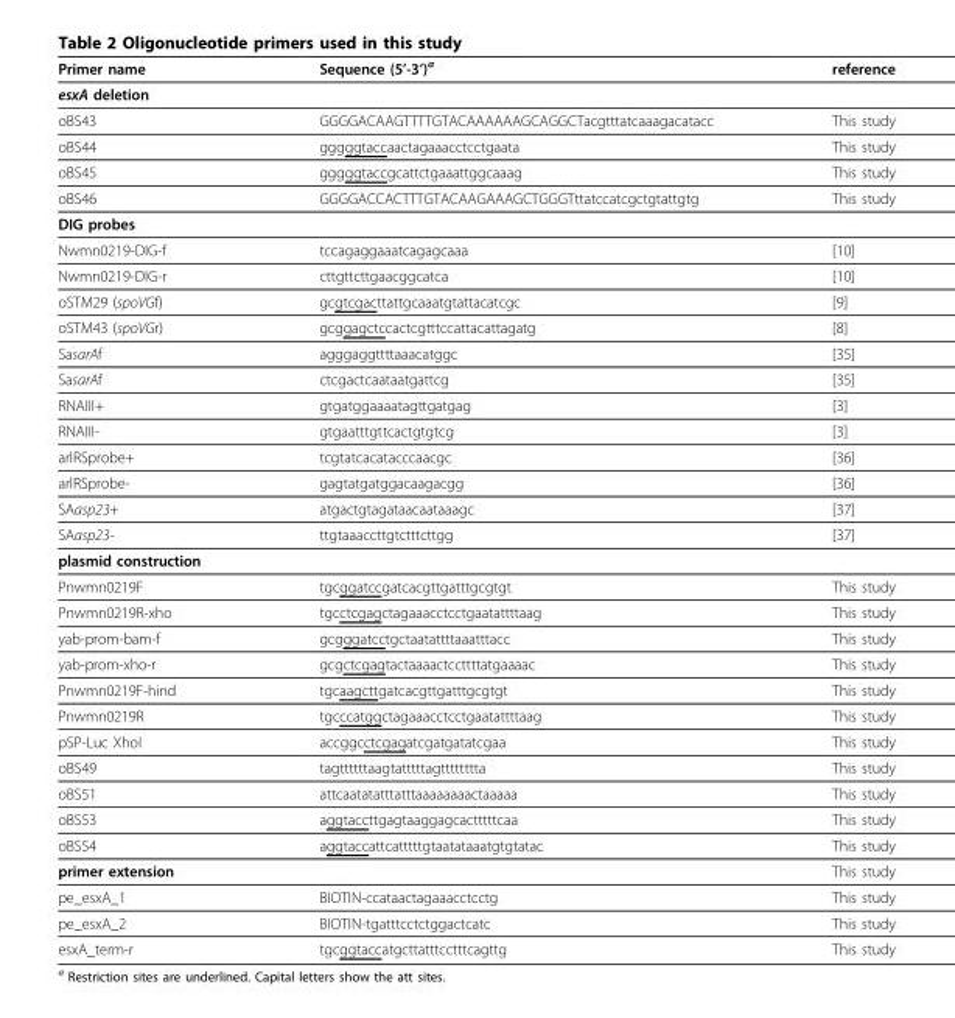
<table><thead><tr><td>Primer name</td><td>Sequence (5’-3’)<sup>a</sup></td><td>reference</td></tr></thead><tbody><tr><td colspan="3">esxA deletion</td></tr><tr><td>oBS43</td><td>GGGGACAAGTTTTGTACAAAAAAGCAGGCTacgtttatcaaagacatacc</td><td>This study</td></tr><tr><td>oBS44</td><td>gggggtaccaactagaaacctcctgaata</td><td>This study</td></tr><tr><td>oBS45</td><td>gggggtaccgcattctgaaattggcaaag</td><td>This study</td></tr><tr><td>oBS46</td><td>GGGGACCACTTTGTACAAGAAAGCTGGGTttatccatcgctgtattgtg</td><td>This study</td></tr><tr><td colspan="3">DIG probes</td></tr><tr><td>Nwmn0219-DIG-f</td><td>tccagaggaaatcagagcaaa</td><td>[10]</td></tr><tr><td>Nwmn0219-DIG-r</td><td>cttgttcttgaacggcatca</td><td>[10]</td></tr><tr><td>oSTM29 (spoVGf)</td><td>gcgtcgacttattgcaaatgtattacatcgc</td><td>[9]</td></tr><tr><td>oSTM43 (spoVGr)</td><td>gcggagctccactcgtttccattacattagatg</td><td>[8]</td></tr><tr><td>SasarAf</td><td>agggaggttttaaacatggc</td><td>[35]</td></tr><tr><td>SasarAf</td><td>ctcgactcaataatgattcg</td><td>[35]</td></tr><tr><td>RNAIII+</td><td>gtgatggaaaatagttgatgag</td><td>[3]</td></tr><tr><td>RNAIII-</td><td>gtgaatttgttcactgtgtcg</td><td>[3]</td></tr><tr><td>arlRSprobe+</td><td>tcgtatcacatacccaacgc</td><td>[36]</td></tr><tr><td>arlRSprobe-</td><td>gagtatgatggacaagacgg</td><td>[36]</td></tr><tr><td>SAasp23+</td><td>atgactgtagataacaataaagc</td><td>[37]</td></tr><tr><td>SAasp23-</td><td>ttgtaaaccttgtctttcttgg</td><td>[37]</td></tr><tr><td colspan="3">plasmid construction</td></tr><tr><td>Pnwmn0219F</td><td>tgcggatccgatcacgttgatttgcgtgt</td><td>This study</td></tr><tr><td>Pnwmn0219R-xho</td><td>tgcctcgagctagaaacctcctgaatattttaag</td><td>This study</td></tr><tr><td>yab-prom-bam-f</td><td>gcgggatcctgctaatattttaaatttacc</td><td>This study</td></tr><tr><td>yab-prom-xho-r</td><td>gcgctcgagtactaaaactccttttatgaaaac</td><td>This study</td></tr><tr><td>Pnwmn0219F-hind</td><td>tgcaagcttgatcacgttgatttgcgtgt</td><td>This study</td></tr><tr><td>Pnwmn0219R</td><td>tgcccatggctagaaacctcctgaatattttaag</td><td>This study</td></tr><tr><td>pSP-Luc XhoI</td><td>accggcctcgagatcgatgatatcgaa</td><td>This study</td></tr><tr><td>oBS49</td><td>tagttttttaagtatttttagtttttttta</td><td>This study</td></tr><tr><td>oBS51</td><td>attcaatatatttatttaaaaaaaactaaaaa</td><td>This study</td></tr><tr><td>oBS53</td><td>aggtaccttgagtaaggagcactttttcaa</td><td>This study</td></tr><tr><td>oBS54</td><td>aggtaccattcatttttgtaatataaatgtgtatac</td><td>This study</td></tr><tr><td>primer extension</td><td></td><td>This study</td></tr><tr><td>pe_esxA_1</td><td>BIOTIN-ccataactagaaacctcctg</td><td>This study</td></tr><tr><td>pe_esxA_2</td><td>BIOTIN-tgatttcctctggactcatc</td><td>This study</td></tr><tr><td>esxA_term-r</td><td>tgcggtaccatgcttatttcctttcagttg</td><td>This study</td></tr></tbody></table>